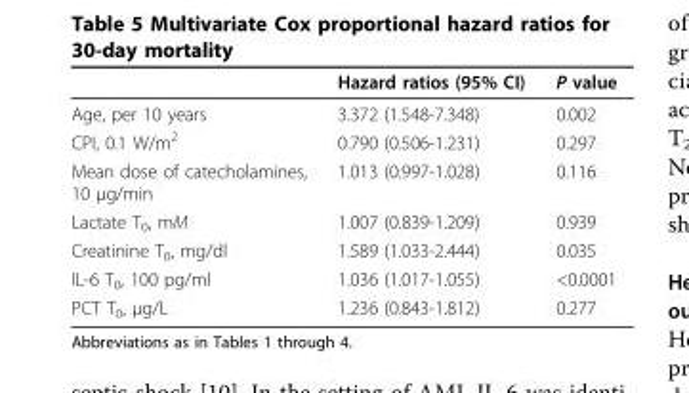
<table><thead><tr><td></td><td>Hazard ratios (95% CI)</td><td>P value</td></tr></thead><tbody><tr><td>Age, per 10 years</td><td>3.372 (1.548-7.348)</td><td>0.002</td></tr><tr><td>CPI, 0.1 W/m<sup>2</sup></td><td>0.790 (0.506-1.231)</td><td>0.297</td></tr><tr><td>Mean dose of catecholamines, 10 µg/min</td><td>1.013 (0.997-1.028)</td><td>0.116</td></tr><tr><td>Lactate T<sub>0</sub>, mM</td><td>1.007 (0.839-1.209)</td><td>0.939</td></tr><tr><td>Creatinine T<sub>0</sub>, mg/dl</td><td>1.589 (1.033-2.444)</td><td>0.035</td></tr><tr><td>IL-6 T<sub>0</sub>, 100 pg/ml</td><td>1.036 (1.017-1.055)</td><td>&lt;0.0001</td></tr><tr><td>PCT T<sub>0</sub>, µg/L</td><td>1.236 (0.843-1.812)</td><td>0.277</td></tr></tbody></table>